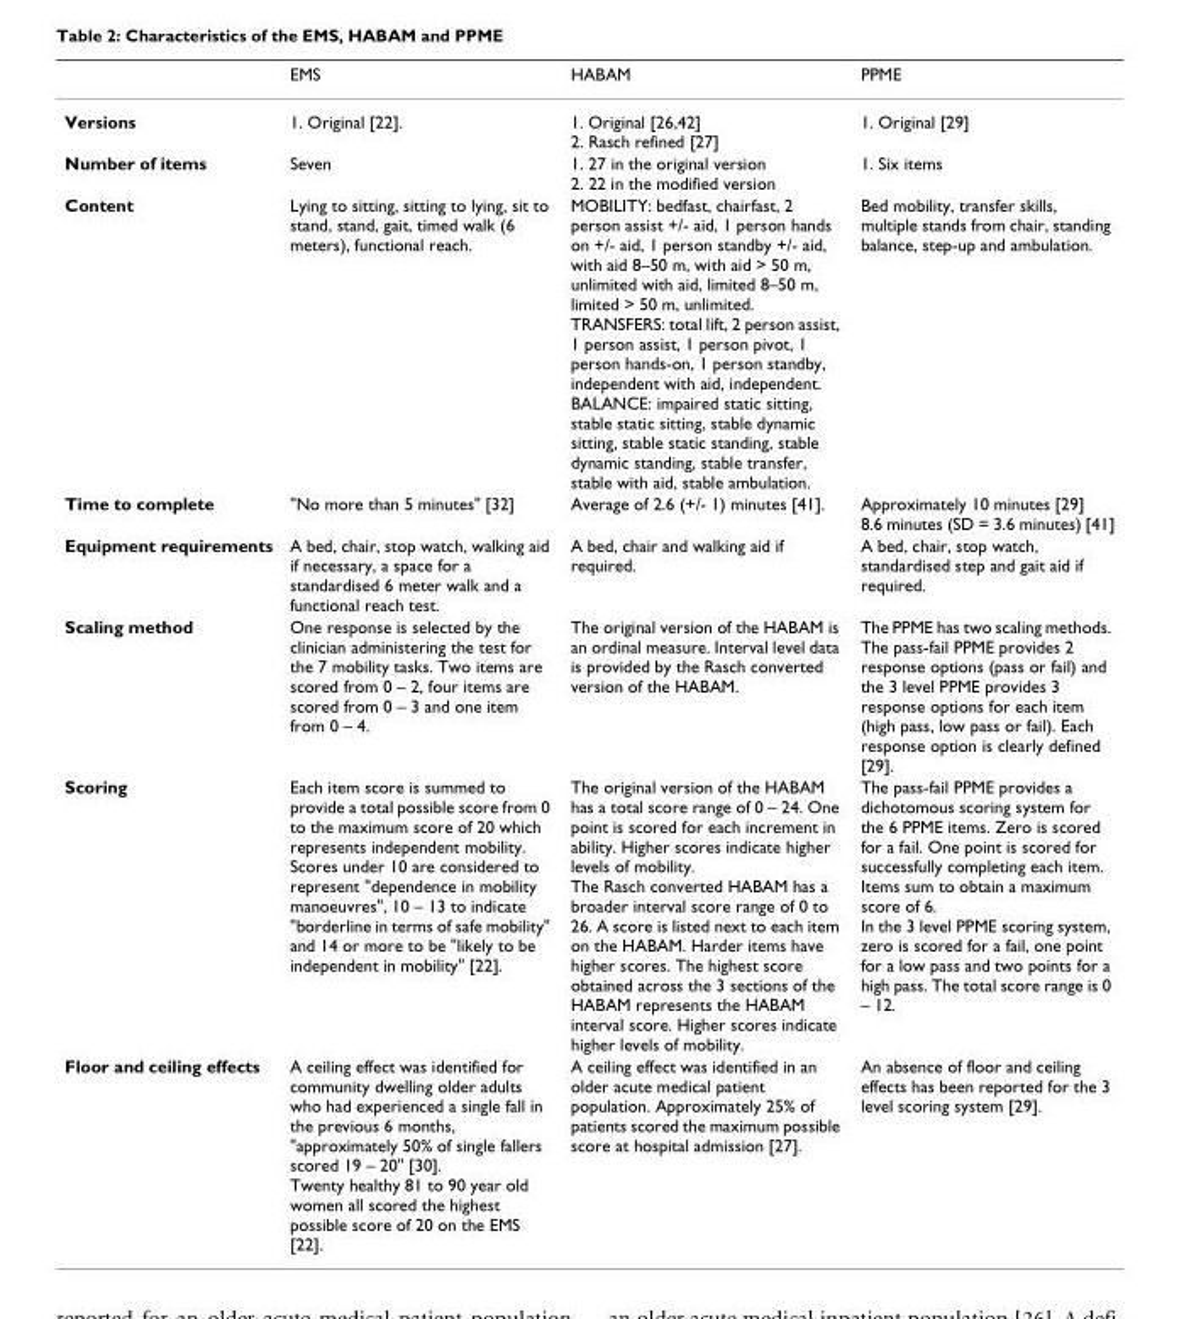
<table><thead><tr><td></td><td>EMS</td><td>HABAM</td><td>PPME</td></tr></thead><tbody><tr><td>Versions</td><td>1. Original [22].</td><td>1. Original [26,42] 2. Rasch refined [27]</td><td>1. Original [29]</td></tr><tr><td>Number of items</td><td>Seven</td><td>1. 27 in the original version 2. 22 in the modified version</td><td>1. Six items</td></tr><tr><td>Content</td><td>Lying to sitting, sitting to lying, sit to stand, stand, gait, timed walk (6 meters), functional reach.</td><td>MOBILITY: bedfast, chairfast, 2 person assist +/- aid, 1 person hands on +/- aid, 1 person standby +/- aid, with aid 8–50 m, with aid &gt; 50 m, unlimited with aid, limited 8–50 m, limited &gt; 50 m, unlimited. TRANSFERS: total lift, 2 person assist, 1 person assist, 1 person pivot, 1 person hands-on, 1 person standby, independent with aid, independent. BALANCE: impaired static sitting, stable static sitting, stable dynamic sitting, stable static standing, stable dynamic standing, stable transfer, stable with aid, stable ambulation.</td><td>Bed mobility, transfer skills, multiple stands from chair, standing balance, step-up and ambulation.</td></tr><tr><td>Time to complete</td><td>&quot;No more than 5 minutes&quot; [32]</td><td>Average of 2.6 (+/- 1) minutes [41].</td><td>Approximately 10 minutes [29] 8.6 minutes (SD = 3.6 minutes) [41]</td></tr><tr><td>Equipment requirements</td><td>A bed, chair, stop watch, walking aid if necessary, a space for a standardised 6 meter walk and a functional reach test.</td><td>A bed, chair and walking aid if required.</td><td>A bed, chair, stop watch, standardised step and gait aid if required.</td></tr><tr><td>Scaling method</td><td>One response is selected by the clinician administering the test for the 7 mobility tasks. Two items are scored from 0 – 2, four items are scored from 0 – 3 and one item from 0 – 4.</td><td>The original version of the HABAM is an ordinal measure. Interval level data is provided by the Rasch converted version of the HABAM.</td><td>The PPME has two scaling methods. The pass-fail PPME provides 2 response options (pass or fail) and the 3 level PPME provides 3 response options for each item (high pass, low pass or fail). Each response option is clearly defined [29].</td></tr><tr><td>Scoring</td><td>Each item score is summed to provide a total possible score from 0 to the maximum score of 20 which represents independent mobility. Scores under 10 are considered to represent &quot;dependence in mobility manoeuvres&quot;, 10 – 13 to indicate &quot;borderline in terms of safe mobility&quot; and 14 or more to be &quot;likely to be independent in mobility&quot; [22].</td><td>The original version of the HABAM has a total score range of 0 – 24. One point is scored for each increment in ability. Higher scores indicate higher levels of mobility. The Rasch converted HABAM has a broader interval score range of 0 to 26. A score is listed next to each item on the HABAM. Harder items have higher scores. The highest score obtained across the 3 sections of the HABAM represents the HABAM interval score. Higher scores indicate higher levels of mobility.</td><td>The pass-fail PPME provides a dichotomous scoring system for the 6 PPME items. Zero is scored for a fail. One point is scored for successfully completing each item. Items sum to obtain a maximum score of 6. In the 3 level PPME scoring system, zero is scored for a fail, one point for a low pass and two points for a high pass. The total score range is 0 – 12.</td></tr><tr><td>Floor and ceiling effects</td><td>A ceiling effect was identified for community dwelling older adults who had experienced a single fall in the previous 6 months, &quot;approximately 50% of single fallers scored 19 – 20&quot; [30]. Twenty healthy 81 to 90 year old women all scored the highest possible score of 20 on the EMS [22].</td><td>A ceiling effect was identified in an older acute medical patient population. Approximately 25% of patients scored the maximum possible score at hospital admission [27].</td><td>An absence of floor and ceiling effects has been reported for the 3 level scoring system [29].</td></tr></tbody></table>